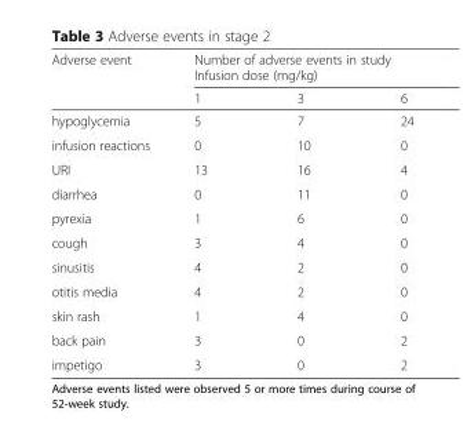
<table><thead><tr><td rowspan="3">Adverse event</td><td rowspan="2" colspan="3">Number of adverse events in study Infusion dose (mg/kg)</td></tr><tr></tr><tr><td>1</td><td>3</td><td>6</td></tr></thead><tbody><tr><td>hypoglycemia</td><td>5</td><td>7</td><td>24</td></tr><tr><td>infusion reactions</td><td>0</td><td>10</td><td>0</td></tr><tr><td>URI</td><td>13</td><td>16</td><td>4</td></tr><tr><td>diarrhea</td><td>0</td><td>11</td><td>0</td></tr><tr><td>pyrexia</td><td>1</td><td>6</td><td>0</td></tr><tr><td>cough</td><td>3</td><td>4</td><td>0</td></tr><tr><td>sinusitis</td><td>4</td><td>2</td><td>0</td></tr><tr><td>otitis media</td><td>4</td><td>2</td><td>0</td></tr><tr><td>skin rash</td><td>1</td><td>4</td><td>0</td></tr><tr><td>back pain</td><td>3</td><td>0</td><td>2</td></tr><tr><td>impetigo</td><td>3</td><td>0</td><td>2</td></tr></tbody></table>